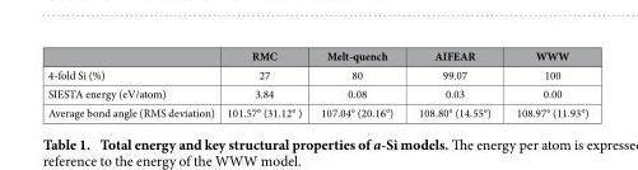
<table><thead><tr><td></td><td>RMC</td><td>Melt-quench</td><td>AIFEAR</td><td>WWW</td></tr></thead><tbody><tr><td>4-fold Si (%)</td><td>27</td><td>80</td><td>99.07</td><td>100</td></tr><tr><td>SIESTA energy (eV/atom)</td><td>3.84</td><td>0.08</td><td>0.03</td><td>0.00</td></tr><tr><td>Average bond angle (RMS deviation)</td><td>101.57° (31.12° )</td><td>107.04° (20.16°)</td><td>108.80° (14.55°)</td><td>108.97° (11.93°)</td></tr></tbody></table>